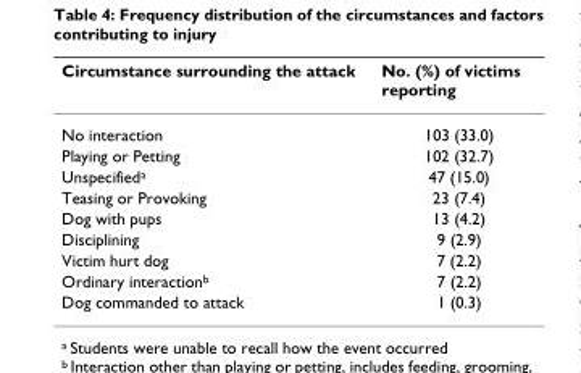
<table><thead><tr><td>Circumstance surrounding the attack</td><td>No. (%) of victims reporting</td></tr></thead><tbody><tr><td>No interaction</td><td>103 (33.0)</td></tr><tr><td>Playing or Petting</td><td>102 (32.7)</td></tr><tr><td>Unspecified<sup>a</sup></td><td>47 (15.0)</td></tr><tr><td>Teasing or Provoking</td><td>23 (7.4)</td></tr><tr><td>Dog with pups</td><td>13 (4.2)</td></tr><tr><td>Disciplining</td><td>9 (2.9)</td></tr><tr><td>Victim hurt dog</td><td>7 (2.2)</td></tr><tr><td>Ordinary interaction<sup>b</sup></td><td>7 (2.2)</td></tr><tr><td>Dog commanded to attack</td><td>1 (0.3)</td></tr></tbody></table>